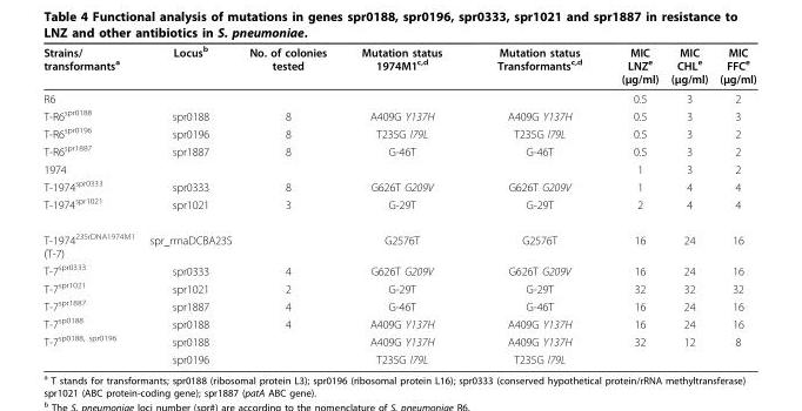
<table><thead><tr><td>Strains/ transformants<sup>a</sup></td><td>Locus<sup>b</sup></td><td>No. of colonies tested</td><td>Mutation status 1974M1<sup>c,d</sup></td><td>Mutation status Transformants<sup>c,d</sup></td><td>MIC LNZ<sup>e</sup> (μg/ml)</td><td>MIC CHL<sup>e</sup> (μg/ml)</td><td>MIC FFC<sup>e</sup> (μg/ml)</td></tr></thead><tbody><tr><td>R6</td><td></td><td></td><td></td><td></td><td>0.5</td><td>3</td><td>2</td></tr><tr><td>T-R6<sup>spr0188</sup></td><td>spr0188</td><td>8</td><td>A409G Y137H</td><td>A409G Y137H</td><td>0.5</td><td>3</td><td>3</td></tr><tr><td>T-R6<sup>spr0196</sup></td><td>spr0196</td><td>8</td><td>T235G I79L</td><td>T235G I79L</td><td>0.5</td><td>3</td><td>2</td></tr><tr><td>T-R6<sup>spr1887</sup></td><td>spr1887</td><td>8</td><td>G-46T</td><td>G-46T</td><td>0.5</td><td>3</td><td>2</td></tr><tr><td>1974</td><td></td><td></td><td></td><td></td><td>1</td><td>3</td><td>2</td></tr><tr><td>T-1974<sup>spr0333</sup></td><td>spr0333</td><td>8</td><td>G626T G209V</td><td>G626T G209V</td><td>1</td><td>4</td><td>4</td></tr><tr><td>T-1974<sup>spr1021</sup></td><td>spr1021</td><td>3</td><td>G-29T</td><td>G-29T</td><td>2</td><td>4</td><td>4</td></tr><tr><td>T-1974<sup>23SrDNA1974M1</sup> (T-7)</td><td>spr_rrnaDCBA23S</td><td></td><td>G2576T</td><td>G2576T</td><td>16</td><td>24</td><td>16</td></tr><tr><td>T-7<sup>spr0333</sup></td><td>spr0333</td><td>4</td><td>G626T G209V</td><td>G626T G209V</td><td>16</td><td>24</td><td>16</td></tr><tr><td>T-7<sup>spr1021</sup></td><td>spr1021</td><td>2</td><td>G-29T</td><td>G-29T</td><td>32</td><td>32</td><td>32</td></tr><tr><td>T-7<sup>spr1887</sup></td><td>spr1887</td><td>4</td><td>G-46T</td><td>G-46T</td><td>16</td><td>24</td><td>16</td></tr><tr><td>T-7<sup>sp0188</sup></td><td>spr0188</td><td>4</td><td>A409G Y137H</td><td>A409G Y137H</td><td>16</td><td>24</td><td>16</td></tr><tr><td rowspan="2">T-7<sup>sp0188, spr0196</sup></td><td>spr0188</td><td></td><td>A409G Y137H</td><td>A409G Y137H</td><td>32</td><td>12</td><td>8</td></tr><tr><td>spr0196</td><td></td><td>T235G I79L</td><td>T235G I79L</td><td></td><td></td><td></td></tr></tbody></table>